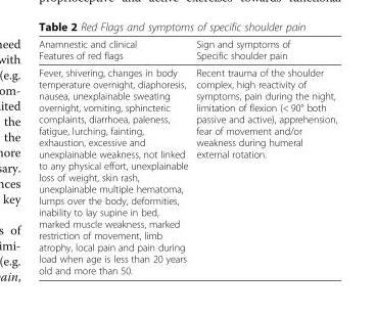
<table><thead><tr><td>Anamnestic and clinical Features of red flags</td><td>Sign and symptoms of Specific shoulder pain</td></tr></thead><tbody><tr><td>Fever, shivering, changes in body temperature overnight, diaphoresis, nausea, unexplainable sweating overnight, vomiting, sphincteric complaints, diarrhoea, paleness, fatigue, lurching, fainting, exhaustion, excessive and unexplainable weakness, not linked to any physical effort, unexplainable loss of weight, skin rash, unexplainable multiple hematoma, lumps over the body, deformities, inability to lay supine in bed, marked muscle weakness, marked restriction of movement, limb atrophy, local pain and pain during load when age is less than 20 years old and more than 50.</td><td>Recent trauma of the shoulder complex, high reactivity of symptoms, pain during the night, limitation of flexion (&lt; 90° both passive and active), apprehension, fear of movement and/or weakness during humeral external rotation.</td></tr></tbody></table>